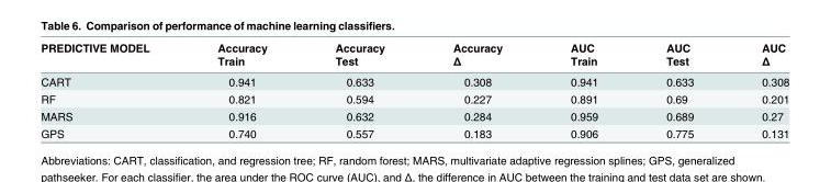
<table><thead><tr><td rowspan="2">PREDICTIVE MODEL</td><td rowspan="2">Accuracy Train</td><td rowspan="2">Accuracy Test</td><td rowspan="2">Accuracy Δ</td><td rowspan="2">AUC Train</td><td rowspan="2">AUC Test</td><td rowspan="2">AUC Δ</td></tr><tr></tr></thead><tbody><tr><td>CART</td><td>0.941</td><td>0.633</td><td>0.308</td><td>0.941</td><td>0.633</td><td>0.308</td></tr><tr><td>RF</td><td>0.821</td><td>0.594</td><td>0.227</td><td>0.891</td><td>0.69</td><td>0.201</td></tr><tr><td>MARS</td><td>0.916</td><td>0.632</td><td>0.284</td><td>0.959</td><td>0.689</td><td>0.27</td></tr><tr><td>GPS</td><td>0.740</td><td>0.557</td><td>0.183</td><td>0.906</td><td>0.775</td><td>0.131</td></tr></tbody></table>